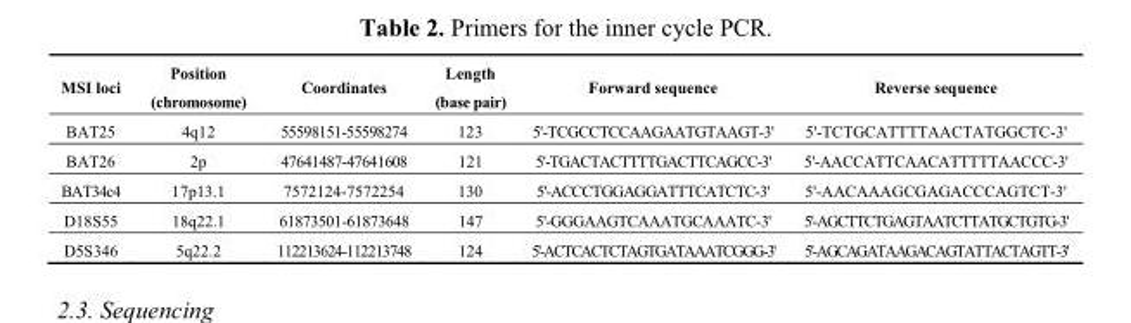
<table><thead><tr><td>MSI loci</td><td>Position (chromosome)</td><td>Coordinates</td><td>Length (base pair)</td><td>Forward sequence</td><td>Reverse sequence</td></tr></thead><tbody><tr><td>BAT25</td><td>4q12</td><td>55598151-55598274</td><td>123</td><td>5&#x27;-TCGCCTCCAAGAATGTAAGT-3&#x27;</td><td>5&#x27;-TCTGCATTTTAACTATGGCTC-3&#x27;</td></tr><tr><td>BAT26</td><td>2p</td><td>47641487-47641608</td><td>121</td><td>5&#x27;-TGACTACTTTTGACTTCAGCC-3&#x27;</td><td>5&#x27;-AACCATTCAACATTTTTAACCC-3&#x27;</td></tr><tr><td>BAT34c4</td><td>17p13.1</td><td>7572124-7572254</td><td>130</td><td>5&#x27;-ACCCTGGAGGATTTCATCTC-3&#x27;</td><td>5&#x27;-AACAAAGCGAGACCCAGTCT-3&#x27;</td></tr><tr><td>D18S55</td><td>18q22.1</td><td>61873501-61873648</td><td>147</td><td>5&#x27;-GGGAAGTCAAATGCAAATC-3&#x27;</td><td>5&#x27;-AGCTTCTGAGTAATCTTATGCTGTG-3&#x27;</td></tr><tr><td>D5S346</td><td>5q22.2</td><td>112213624-112213748</td><td>124</td><td>5&#x27;-ACTCACTCTAGTGATAAATCGGG-3&#x27;</td><td>5&#x27;-AGCAGATAAGACAGTATTACTAGTT-3&#x27;</td></tr></tbody></table>